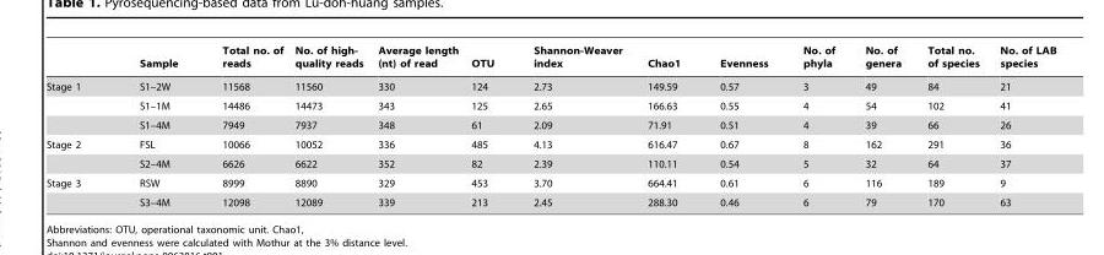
<table><thead><tr><td></td><td>Sample</td><td>Total no. of reads</td><td>No. of high- quality reads</td><td>Average length (nt) of read</td><td>OTU</td><td>Shannon-Weaver index</td><td>Chao1</td><td>Evenness</td><td>No. of phyla</td><td>No. of genera</td><td>Total no. of species</td><td>No. of LAB species</td></tr></thead><tbody><tr><td rowspan="3">Stage 1</td><td>S1–2W</td><td>11568</td><td>11560</td><td>330</td><td>124</td><td>2.73</td><td>149.59</td><td>0.57</td><td>3</td><td>49</td><td>84</td><td>21</td></tr><tr><td>S1–1M</td><td>14486</td><td>14473</td><td>343</td><td>125</td><td>2.65</td><td>166.63</td><td>0.55</td><td>4</td><td>54</td><td>102</td><td>41</td></tr><tr><td>S1–4M</td><td>7949</td><td>7937</td><td>348</td><td>61</td><td>2.09</td><td>71.91</td><td>0.51</td><td>4</td><td>39</td><td>66</td><td>26</td></tr><tr><td rowspan="2">Stage 2</td><td>FSL</td><td>10066</td><td>10052</td><td>336</td><td>485</td><td>4.13</td><td>616.47</td><td>0.67</td><td>8</td><td>162</td><td>291</td><td>36</td></tr><tr><td>S2–4M</td><td>6626</td><td>6622</td><td>352</td><td>82</td><td>2.39</td><td>110.11</td><td>0.54</td><td>5</td><td>32</td><td>64</td><td>37</td></tr><tr><td rowspan="2">Stage 3</td><td>RSW</td><td>8999</td><td>8890</td><td>329</td><td>453</td><td>3.70</td><td>664.41</td><td>0.61</td><td>6</td><td>116</td><td>189</td><td>9</td></tr><tr><td>S3–4M</td><td>12098</td><td>12089</td><td>339</td><td>213</td><td>2.45</td><td>288.30</td><td>0.46</td><td>6</td><td>79</td><td>170</td><td>63</td></tr></tbody></table>